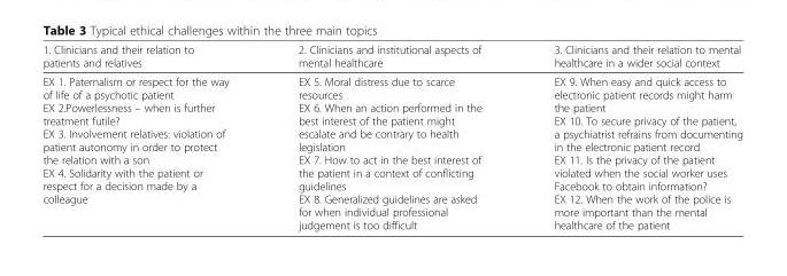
<table><thead><tr><td>1. Clinicians and their relation to patients and relatives</td><td>2. Clinicians and institutional aspects of mental healthcare</td><td>3. Clinicians and their relation to mental healthcare in a wider social context</td></tr></thead><tbody><tr><td>EX 1. Paternalism or respect for the way of life of a psychotic patient EX 2.Powerlessness – when is further treatment futile? EX 3. Involvement relatives: violation of patient autonomy in order to protect the relation with a son EX 4. Solidarity with the patient or respect for a decision made by a colleague</td><td>EX 5. Moral distress due to scarce resources EX 6. When an action performed in the best interest of the patient might escalate and be contrary to health legislation EX 7. How to act in the best interest of the patient in a context of conflicting guidelines EX 8. Generalized guidelines are asked for when individual professional judgement is too difficult</td><td>EX 9. When easy and quick access to electronic patient records might harm the patient EX 10. To secure privacy of the patient, a psychiatrist refrains from documenting in the electronic patient record EX 11. Is the privacy of the patient violated when the social worker uses Facebook to obtain information? EX 12. When the work of the police is more important than the mental healthcare of the patient</td></tr></tbody></table>